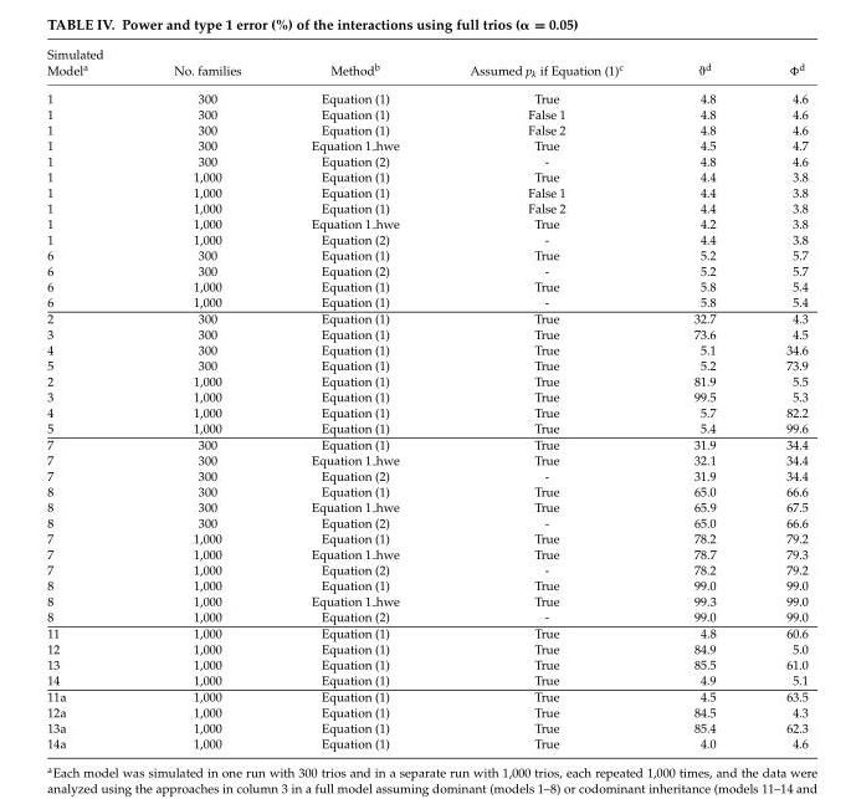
<table><thead><tr><td>Simulated Model<sup>a</sup></td><td>No. families</td><td>Method<sup>b</sup></td><td>Assumed p<sub>k</sub> if Equation (1)<sup>c</sup></td><td>ϑ<sup>d</sup></td><td>Φ<sup>d</sup></td></tr></thead><tbody><tr><td>1</td><td>300</td><td>Equation (1)</td><td>True</td><td>4.8</td><td>4.6</td></tr><tr><td>1</td><td>300</td><td>Equation (1)</td><td>False 1</td><td>4.8</td><td>4.6</td></tr><tr><td>1</td><td>300</td><td>Equation (1)</td><td>False 2</td><td>4.8</td><td>4.6</td></tr><tr><td>1</td><td>300</td><td>Equation 1 hwe</td><td>True</td><td>4.5</td><td>4.7</td></tr><tr><td>1</td><td>300</td><td>Equation (2)</td><td>-</td><td>4.8</td><td>4.6</td></tr><tr><td>1</td><td>1,000</td><td>Equation (1)</td><td>True</td><td>4.4</td><td>3.8</td></tr><tr><td>1</td><td>1,000</td><td>Equation (1)</td><td>False 1</td><td>4.4</td><td>3.8</td></tr><tr><td>1</td><td>1,000</td><td>Equation (1)</td><td>False 2</td><td>4.4</td><td>3.8</td></tr><tr><td>1</td><td>1,000</td><td>Equation 1 hwe</td><td>True</td><td>4.2</td><td>3.8</td></tr><tr><td>1</td><td>1,000</td><td>Equation (2)</td><td>-</td><td>4.4</td><td>3.8</td></tr><tr><td>6</td><td>300</td><td>Equation (1)</td><td>True</td><td>5.2</td><td>5.7</td></tr><tr><td>6</td><td>300</td><td>Equation (2)</td><td>-</td><td>5.2</td><td>5.7</td></tr><tr><td>6</td><td>1,000</td><td>Equation (1)</td><td>True</td><td>5.8</td><td>5.4</td></tr><tr><td>6</td><td>1,000</td><td>Equation (1)</td><td>-</td><td>5.8</td><td>5.4</td></tr><tr><td>2</td><td>300</td><td>Equation (1)</td><td>True</td><td>32.7</td><td>4.3</td></tr><tr><td>3</td><td>300</td><td>Equation (1)</td><td>True</td><td>73.6</td><td>4.5</td></tr><tr><td>4</td><td>300</td><td>Equation (1)</td><td>True</td><td>5.1</td><td>34.6</td></tr><tr><td>5</td><td>300</td><td>Equation (1)</td><td>True</td><td>5.2</td><td>73.9</td></tr><tr><td>2</td><td>1,000</td><td>Equation (1)</td><td>True</td><td>81.9</td><td>5.5</td></tr><tr><td>3</td><td>1,000</td><td>Equation (1)</td><td>True</td><td>99.5</td><td>5.3</td></tr><tr><td>4</td><td>1,000</td><td>Equation (1)</td><td>True</td><td>5.7</td><td>82.2</td></tr><tr><td>5</td><td>1,000</td><td>Equation (1)</td><td>True</td><td>5.4</td><td>99.6</td></tr><tr><td>7</td><td>300</td><td>Equation (1)</td><td>True</td><td>31.9</td><td>34.4</td></tr><tr><td>7</td><td>300</td><td>Equation 1 hwe</td><td>True</td><td>32.1</td><td>34.4</td></tr><tr><td>7</td><td>300</td><td>Equation (2)</td><td>-</td><td>31.9</td><td>34.4</td></tr><tr><td>8</td><td>300</td><td>Equation (1)</td><td>True</td><td>65.0</td><td>66.6</td></tr><tr><td>8</td><td>300</td><td>Equation 1 hwe</td><td>True</td><td>65.9</td><td>67.5</td></tr><tr><td>8</td><td>300</td><td>Equation (2)</td><td>-</td><td>65.0</td><td>66.6</td></tr><tr><td>7</td><td>1,000</td><td>Equation (1)</td><td>True</td><td>78.2</td><td>79.2</td></tr><tr><td>7</td><td>1,000</td><td>Equation 1 hwe</td><td>True</td><td>78.7</td><td>79.3</td></tr><tr><td>7</td><td>1,000</td><td>Equation (2)</td><td>-</td><td>78.2</td><td>79.2</td></tr><tr><td>8</td><td>1,000</td><td>Equation (1)</td><td>True</td><td>99.0</td><td>99.0</td></tr><tr><td>8</td><td>1,000</td><td>Equation 1 hwe</td><td>True</td><td>99.3</td><td>99.0</td></tr><tr><td>8</td><td>1,000</td><td>Equation (2)</td><td>-</td><td>99.0</td><td>99.0</td></tr><tr><td>11</td><td>1,000</td><td>Equation (1)</td><td>True</td><td>4.8</td><td>60.6</td></tr><tr><td>12</td><td>1,000</td><td>Equation (1)</td><td>True</td><td>84.9</td><td>5.0</td></tr><tr><td>13</td><td>1,000</td><td>Equation (1)</td><td>True</td><td>85.5</td><td>61.0</td></tr><tr><td>14</td><td>1,000</td><td>Equation (1)</td><td>True</td><td>4.9</td><td>5.1</td></tr><tr><td>11a</td><td>1,000</td><td>Equation (1)</td><td>True</td><td>4.5</td><td>63.5</td></tr><tr><td>12a</td><td>1,000</td><td>Equation (1)</td><td>True</td><td>84.5</td><td>4.3</td></tr><tr><td>13a</td><td>1,000</td><td>Equation (1)</td><td>True</td><td>85.4</td><td>62.3</td></tr><tr><td>14a</td><td>1,000</td><td>Equation (1)</td><td>True</td><td>4.0</td><td>4.6</td></tr></tbody></table>